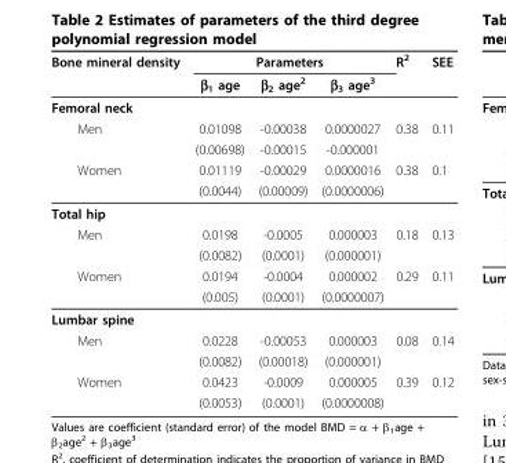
<table><thead><tr><td rowspan="2">Bone mineral density</td><td colspan="3">Parameters</td><td rowspan="2">R<sup>2</sup></td><td rowspan="2">SEE</td></tr><tr><td>β<sub>1</sub> age</td><td>β<sub>2</sub> age<sup>2</sup></td><td>β<sub>3</sub> age<sup>3</sup></td></tr></thead><tbody><tr><td colspan="6">Femoral neck</td></tr><tr><td rowspan="2">Men</td><td>0.01098</td><td>-0.00038</td><td>0.0000027</td><td>0.38</td><td>0.11</td></tr><tr><td>(0.00698)</td><td>-0.00015</td><td>-0.000001</td><td></td><td></td></tr><tr><td rowspan="2">Women</td><td>0.01119</td><td>-0.00029</td><td>0.0000016</td><td>0.38</td><td>0.1</td></tr><tr><td>(0.0044)</td><td>(0.00009)</td><td>(0.0000006)</td><td></td><td></td></tr><tr><td colspan="6">Total hip</td></tr><tr><td rowspan="2">Men</td><td>0.0198</td><td>-0.0005</td><td>0.000003</td><td>0.18</td><td>0.13</td></tr><tr><td>(0.0082)</td><td>(0.0001)</td><td>(0.000001)</td><td></td><td></td></tr><tr><td rowspan="2">Women</td><td>0.0194</td><td>-0.0004</td><td>0.000002</td><td>0.29</td><td>0.11</td></tr><tr><td>(0.005)</td><td>(0.0001)</td><td>(0.0000007)</td><td></td><td></td></tr><tr><td colspan="6">Lumbar spine</td></tr><tr><td rowspan="2">Men</td><td>0.0228</td><td>-0.00053</td><td>0.000003</td><td>0.08</td><td>0.14</td></tr><tr><td>(0.0082)</td><td>(0.00018)</td><td>(0.000001)</td><td></td><td></td></tr><tr><td rowspan="2">Women</td><td>0.0423</td><td>-0.0009</td><td>0.000005</td><td>0.39</td><td>0.12</td></tr><tr><td>(0.0053)</td><td>(0.0001)</td><td>(0.0000008)</td><td></td><td></td></tr></tbody></table>